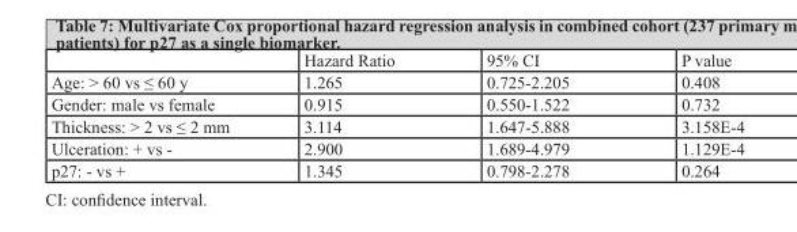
<table><thead><tr><td></td><td>Hazard Ratio</td><td>95% CI</td><td>P value</td></tr></thead><tbody><tr><td>Age: &gt; 60 vs ≤ 60 y</td><td>1.265</td><td>0.725-2.205</td><td>0.408</td></tr><tr><td>Gender: male vs female</td><td>0.915</td><td>0.550-1.522</td><td>0.732</td></tr><tr><td>Thickness: &gt; 2 vs ≤ 2 mm</td><td>3.114</td><td>1.647-5.888</td><td>3.158E-4</td></tr><tr><td>Ulceration: + vs -</td><td>2.900</td><td>1.689-4.979</td><td>1.129E-4</td></tr><tr><td>p27: - vs +</td><td>1.345</td><td>0.798-2.278</td><td>0.264</td></tr></tbody></table>